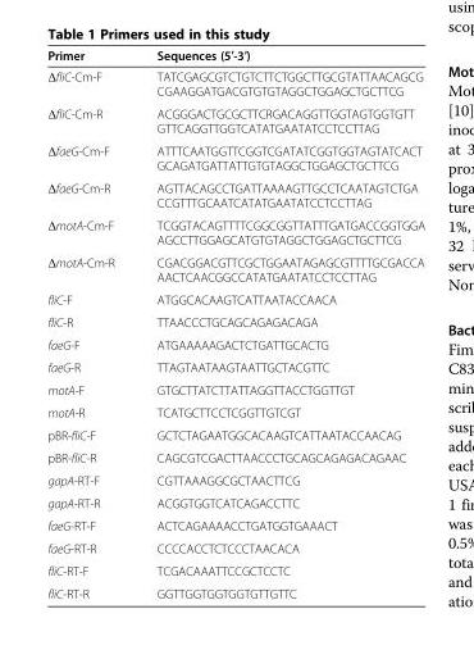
<table><thead><tr><td>Primer</td><td>Sequences (5′-3′)</td></tr></thead><tbody><tr><td>ΔfliC-Cm-F</td><td>TATCGAGCGTCTGTCTTCTGGCTTGCGTATTAACAGCG CGAAGGATGACGTGTGTAGGCTGGAGCTGCTTCG</td></tr><tr><td>ΔfliC-Cm-R</td><td>ACGGGACTGCGCTTCRGACAGGTTGGTAGTGGTGTT GTTCAGGTTGGTCATATGAATATCCTCCTTAG</td></tr><tr><td>ΔfaeG-Cm-F</td><td>ATTTCAATGGTTCGGTCGATATCGGTGGTAGTATCACT GCAGATGATTATTGTGTAGGCTGGAGCTGCTTCG</td></tr><tr><td>ΔfaeG-Cm-R</td><td>AGTTACAGCCTGATTAAAAGTTGCCTCAATAGTCTGA CCGTTTGCAATCATATGAATATCCTCCTTAG</td></tr><tr><td>ΔmotA-Cm-F</td><td>TCGGTACAGTTTTCGGCGGTTATTTGATGACCGGTGGA AGCCTTGGAGCATGTGTAGGCTGGAGCTGCTTCG</td></tr><tr><td>ΔmotA-Cm-R</td><td>CGACGGACGTTCGCTGGAATAGAGCGTTTTGCGACCA AACTCAACGGCCATATGAATATCCTCCTTAG</td></tr><tr><td>fliC-F</td><td>ATGGCACAAGTCATTAATACCAACA</td></tr><tr><td>fliC-R</td><td>TTAACCCTGCAGCAGAGACAGA</td></tr><tr><td>faeG-F</td><td>ATGAAAAAGACTCTGATTGCACTG</td></tr><tr><td>faeG-R</td><td>TTAGTAATAAGTAATTGCTACGTTC</td></tr><tr><td>motA-F</td><td>GTGCTTATCTTATTAGGTTACCTGGTTGT</td></tr><tr><td>motA-R</td><td>TCATGCTTCCTCGGTTGTCGT</td></tr><tr><td>pBR-fliC-F</td><td>GCTCTAGAATGGCACAAGTCATTAATACCAACAG</td></tr><tr><td>pBR-fliC-R</td><td>CAGCGTCGACTTAACCCTGCAGCAGAGACAGAAC</td></tr><tr><td>gapA-RT-F</td><td>CGTTAAAGGCGCTAACTTCG</td></tr><tr><td>gapA-RT-R</td><td>ACGGTGGTCATCAGACCTTC</td></tr><tr><td>faeG-RT-F</td><td>ACTCAGAAAACCTGATGGTGAAACT</td></tr><tr><td>faeG-RT-R</td><td>CCCCACCTCTCCCTAACACA</td></tr><tr><td>fliC-RT-F</td><td>TCGACAAATTCCGCTCCTC</td></tr><tr><td>fliC-RT-R</td><td>GGTTGGTGGTGGTGTTGTTC</td></tr></tbody></table>